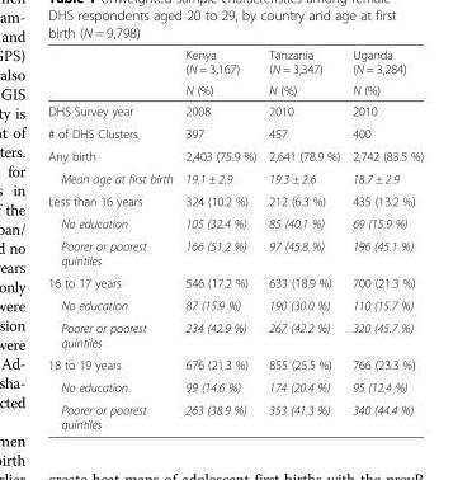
<table><thead><tr><td rowspan="2"></td><td rowspan="2">Kenya (N = 3,167) N (%)</td><td rowspan="2">Tanzania (N = 3,347) N (%)</td><td rowspan="2">Uganda (N = 3,284) N (%)</td></tr><tr></tr></thead><tbody><tr><td>DHS Survey year</td><td>2008</td><td>2010</td><td>2010</td></tr><tr><td># of DHS Clusters</td><td>397</td><td>457</td><td>400</td></tr><tr><td>Any birth</td><td>2,403 (75.9 %)</td><td>2,641 (78.9 %)</td><td>2,742 (83.5 %)</td></tr><tr><td>Mean age at first birth</td><td>19.1 ± 2.9</td><td>19.3 ± 2.6</td><td>18.7 ± 2.9</td></tr><tr><td>Less than 16 years</td><td>324 (10.2 %)</td><td>212 (6.3 %)</td><td>435 (13.2 %)</td></tr><tr><td>No education</td><td>105 (32.4 %)</td><td>85 (40.1 %)</td><td>69 (15.9 %)</td></tr><tr><td>Poorer or poorest quintiles</td><td>166 (51.2 %)</td><td>97 (45.8 %)</td><td>196 (45.1 %)</td></tr><tr><td>16 to 17 years</td><td>546 (17.2 %)</td><td>633 (18.9 %)</td><td>700 (21.3 %)</td></tr><tr><td>No education</td><td>87 (15.9 %)</td><td>190 (30.0 %)</td><td>110 (15.7 %)</td></tr><tr><td>Poorer or poorest quintiles</td><td>234 (42.9 %)</td><td>267 (42.2 %)</td><td>320 (45.7 %)</td></tr><tr><td>18 to 19 years</td><td>676 (21.3 %)</td><td>855 (25.5 %)</td><td>766 (23.3 %)</td></tr><tr><td>No education</td><td>99 (14.6 %)</td><td>174 (20.4 %)</td><td>95 (12.4 %)</td></tr><tr><td>Poorer or poorest quintiles</td><td>263 (38.9 %)</td><td>353 (41.3 %)</td><td>340 (44.4 %)</td></tr></tbody></table>